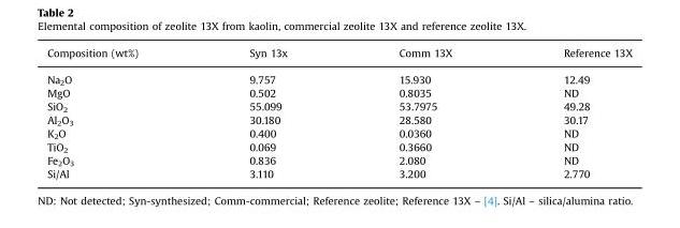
<table><thead><tr><td>Composition (wt%)</td><td>Syn 13x</td><td>Comm 13X</td><td>Reference 13X</td></tr></thead><tbody><tr><td>Na<sub>2</sub>O</td><td>9.757</td><td>15.930</td><td>12.49</td></tr><tr><td>MgO</td><td>0.502</td><td>0.8035</td><td>ND</td></tr><tr><td>SiO<sub>2</sub></td><td>55.099</td><td>53.7975</td><td>49.28</td></tr><tr><td>Al<sub>2</sub>O<sub>3</sub></td><td>30.180</td><td>28.580</td><td>30.17</td></tr><tr><td>K<sub>2</sub>O</td><td>0.400</td><td>0.0360</td><td>ND</td></tr><tr><td>TiO<sub>2</sub></td><td>0.069</td><td>0.3660</td><td>ND</td></tr><tr><td>Fe<sub>2</sub>O<sub>3</sub></td><td>0.836</td><td>2.080</td><td>ND</td></tr><tr><td>Si/Al</td><td>3.110</td><td>3.200</td><td>2.770</td></tr></tbody></table>